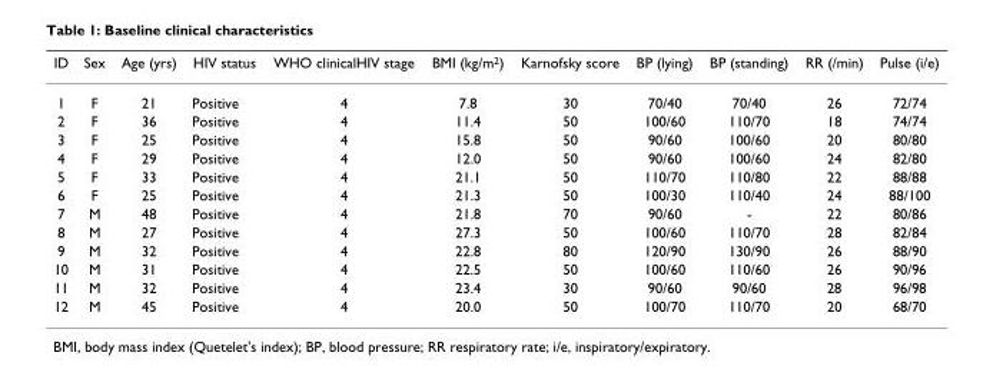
<table><thead><tr><td>ID</td><td>Sex</td><td>Age (yrs)</td><td>HIV status</td><td>WHO clinicalHIV stage</td><td>BMI (kg/m<sup>2</sup>)</td><td>Karnofsky score</td><td>BP (lying)</td><td>BP (standing)</td><td>RR (/min)</td><td>Pulse (i/e)</td></tr></thead><tbody><tr><td>1</td><td>F</td><td>21</td><td>Positive</td><td>4</td><td>7.8</td><td>30</td><td>70/40</td><td>70/40</td><td>26</td><td>72/74</td></tr><tr><td>2</td><td>F</td><td>36</td><td>Positive</td><td>4</td><td>11.4</td><td>50</td><td>100/60</td><td>110/70</td><td>18</td><td>74/74</td></tr><tr><td>3</td><td>F</td><td>25</td><td>Positive</td><td>4</td><td>15.8</td><td>50</td><td>90/60</td><td>100/60</td><td>20</td><td>80/80</td></tr><tr><td>4</td><td>F</td><td>29</td><td>Positive</td><td>4</td><td>12.0</td><td>50</td><td>90/60</td><td>100/60</td><td>24</td><td>82/80</td></tr><tr><td>5</td><td>F</td><td>33</td><td>Positive</td><td>4</td><td>21.1</td><td>50</td><td>110/70</td><td>110/80</td><td>22</td><td>88/88</td></tr><tr><td>6</td><td>F</td><td>25</td><td>Positive</td><td>4</td><td>21.3</td><td>50</td><td>100/30</td><td>110/40</td><td>24</td><td>88/100</td></tr><tr><td>7</td><td>M</td><td>48</td><td>Positive</td><td>4</td><td>21.8</td><td>70</td><td>90/60</td><td>-</td><td>22</td><td>80/86</td></tr><tr><td>8</td><td>M</td><td>27</td><td>Positive</td><td>4</td><td>27.3</td><td>50</td><td>100/60</td><td>110/70</td><td>28</td><td>82/84</td></tr><tr><td>9</td><td>M</td><td>32</td><td>Positive</td><td>4</td><td>22.8</td><td>80</td><td>120/90</td><td>130/90</td><td>26</td><td>88/90</td></tr><tr><td>10</td><td>M</td><td>31</td><td>Positive</td><td>4</td><td>22.5</td><td>50</td><td>100/60</td><td>110/60</td><td>26</td><td>90/96</td></tr><tr><td>11</td><td>M</td><td>32</td><td>Positive</td><td>4</td><td>23.4</td><td>30</td><td>90/60</td><td>90/60</td><td>28</td><td>96/98</td></tr><tr><td>12</td><td>M</td><td>45</td><td>Positive</td><td>4</td><td>20.0</td><td>50</td><td>100/70</td><td>110/70</td><td>20</td><td>68/70</td></tr></tbody></table>